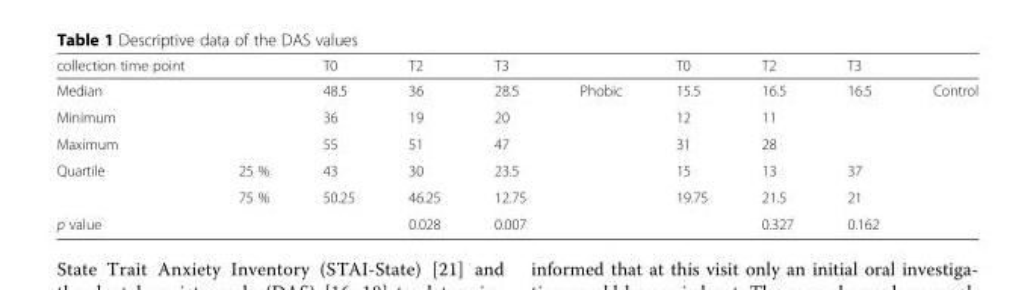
<table><thead><tr><td>collection time point</td><td></td><td>T0</td><td>T2</td><td>T3</td><td></td><td>T0</td><td>T2</td><td>T3</td><td></td></tr></thead><tbody><tr><td>Median</td><td></td><td>48.5</td><td>36</td><td>28.5</td><td rowspan="6">Phobic</td><td>15.5</td><td>16.5</td><td>16.5</td><td rowspan="6">Control</td></tr><tr><td>Minimum</td><td></td><td>36</td><td>19</td><td>20</td><td>12</td><td>11</td><td></td></tr><tr><td>Maximum</td><td></td><td>55</td><td>51</td><td>47</td><td>31</td><td>28</td><td></td></tr><tr><td rowspan="2">Quartile</td><td>25 %</td><td>43</td><td>30</td><td>23.5</td><td>15</td><td>13</td><td>37</td></tr><tr><td>75 %</td><td>50.25</td><td>46.25</td><td>12.75</td><td>19.75</td><td>21.5</td><td>21</td></tr><tr><td>p value</td><td></td><td></td><td>0.028</td><td>0.007</td><td></td><td>0.327</td><td>0.162</td></tr></tbody></table>